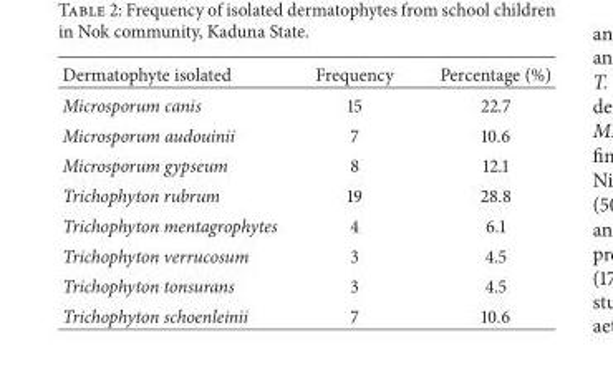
<table><thead><tr><td>Dermatophyte isolated</td><td>Frequency</td><td>Percentage (%)</td></tr></thead><tbody><tr><td>Microsporum canis</td><td>15</td><td>22.7</td></tr><tr><td>Microsporum audouinii</td><td>7</td><td>10.6</td></tr><tr><td>Microsporum gypseum</td><td>8</td><td>12.1</td></tr><tr><td>Trichophyton rubrum</td><td>19</td><td>28.8</td></tr><tr><td>Trichophyton mentagrophytes</td><td>4</td><td>6.1</td></tr><tr><td>Trichophyton verrucosum</td><td>3</td><td>4.5</td></tr><tr><td>Trichophyton tonsurans</td><td>3</td><td>4.5</td></tr><tr><td>Trichophyton schoenleinii</td><td>7</td><td>10.6</td></tr></tbody></table>